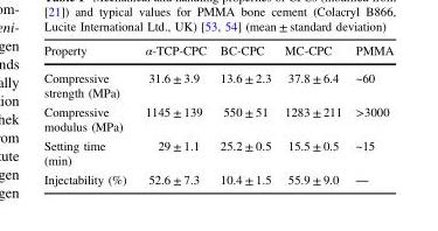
<table><thead><tr><td>Property</td><td>α-TCP-CPC</td><td>BC-CPC</td><td>MC-CPC</td><td>PMMA</td></tr></thead><tbody><tr><td>Compressive strength (MPa)</td><td>31.6 ± 3.9</td><td>13.6 ± 2.3</td><td>37.8 ± 6.4</td><td>~60</td></tr><tr><td>Compressive modulus (MPa)</td><td>1145 ± 139</td><td>550 ± 51</td><td>1283 ± 211</td><td>&gt;3000</td></tr><tr><td>Setting time (min)</td><td>29 ± 1.1</td><td>25.2 ± 0.5</td><td>15.5 ± 0.5</td><td>~15</td></tr><tr><td>Injectability (%)</td><td>52.6 ± 7.3</td><td>10.4 ± 1.5</td><td>55.9 ± 9.0</td><td>—</td></tr></tbody></table>